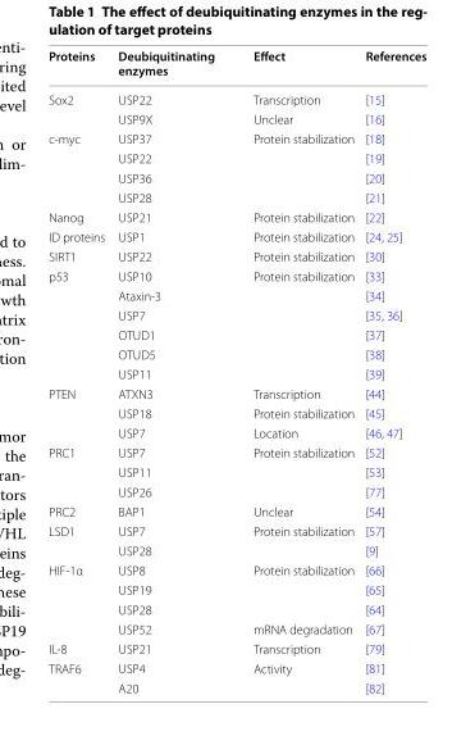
<table><thead><tr><td>Proteins</td><td>Deubiquitinating enzymes</td><td>Effect</td><td>References</td></tr></thead><tbody><tr><td rowspan="2">Sox2</td><td>USP22</td><td>Transcription</td><td>[15]</td></tr><tr><td>USP9X</td><td>Unclear</td><td>[16]</td></tr><tr><td rowspan="4">c-myc</td><td>USP37</td><td rowspan="4">Protein stabilization</td><td>[18]</td></tr><tr><td>USP22</td><td>[19]</td></tr><tr><td>USP36</td><td>[20]</td></tr><tr><td>USP28</td><td>[21]</td></tr><tr><td>Nanog</td><td>USP21</td><td>Protein stabilization</td><td>[22]</td></tr><tr><td>ID proteins</td><td>USP1</td><td>Protein stabilization</td><td>[24, 25]</td></tr><tr><td>SIRT1</td><td>USP22</td><td>Protein stabilization</td><td>[30]</td></tr><tr><td rowspan="6">p53</td><td>USP10</td><td rowspan="6">Protein stabilization</td><td>[33]</td></tr><tr><td>Ataxin-3</td><td>[34]</td></tr><tr><td>USP7</td><td>[35, 36]</td></tr><tr><td>OTUD1</td><td>[37]</td></tr><tr><td>OTUD5</td><td>[38]</td></tr><tr><td>USP11</td><td>[39]</td></tr><tr><td rowspan="3">PTEN</td><td>ATXN3</td><td>Transcription</td><td>[44]</td></tr><tr><td>USP18</td><td>Protein stabilization</td><td>[45]</td></tr><tr><td>USP7</td><td>Location</td><td>[46, 47]</td></tr><tr><td rowspan="3">PRC1</td><td>USP7</td><td rowspan="3">Protein stabilization</td><td>[52]</td></tr><tr><td>USP11</td><td>[53]</td></tr><tr><td>USP26</td><td>[77]</td></tr><tr><td>PRC2</td><td>BAP1</td><td>Unclear</td><td>[54]</td></tr><tr><td rowspan="2">LSD1</td><td>USP7</td><td rowspan="2">Protein stabilization</td><td>[57]</td></tr><tr><td>USP28</td><td>[9]</td></tr><tr><td rowspan="4">HIF-1α</td><td>USP8</td><td rowspan="3">Protein stabilization</td><td>[66]</td></tr><tr><td>USP19</td><td>[65]</td></tr><tr><td>USP28</td><td>[64]</td></tr><tr><td>USP52</td><td>mRNA degradation</td><td>[67]</td></tr><tr><td>IL-8</td><td>USP21</td><td>Transcription</td><td>[79]</td></tr><tr><td rowspan="2">TRAF6</td><td>USP4</td><td rowspan="2">Activity</td><td>[81]</td></tr><tr><td>A20</td><td>[82]</td></tr></tbody></table>